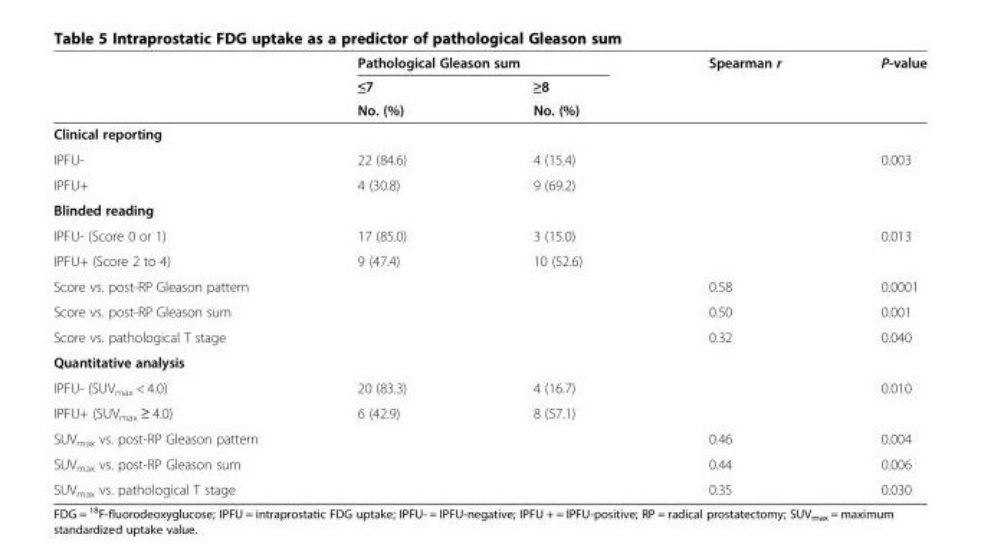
<table><thead><tr><td rowspan="3"></td><td colspan="2">Pathological Gleason sum</td><td rowspan="3">Spearman r</td><td rowspan="3">P-value</td></tr><tr><td rowspan="2">≤7 No. (%)</td><td rowspan="2">≥8 No. (%)</td></tr><tr></tr></thead><tbody><tr><td colspan="5">Clinical reporting</td></tr><tr><td>IPFU-</td><td>22 (84.6)</td><td>4 (15.4)</td><td></td><td>0.003</td></tr><tr><td>IPFU+</td><td>4 (30.8)</td><td>9 (69.2)</td><td></td><td></td></tr><tr><td colspan="5">Blinded reading</td></tr><tr><td>IPFU- (Score 0 or 1)</td><td>17 (85.0)</td><td>3 (15.0)</td><td></td><td>0.013</td></tr><tr><td>IPFU+ (Score 2 to 4)</td><td>9 (47.4)</td><td>10 (52.6)</td><td></td><td></td></tr><tr><td>Score vs. post-RP Gleason pattern</td><td></td><td></td><td>0.58</td><td>0.0001</td></tr><tr><td>Score vs. post-RP Gleason sum</td><td></td><td></td><td>0.50</td><td>0.001</td></tr><tr><td>Score vs. pathological T stage</td><td></td><td></td><td>0.32</td><td>0.040</td></tr><tr><td colspan="5">Quantitative analysis</td></tr><tr><td>IPFU- (SUV<sub>max</sub> &lt; 4.0)</td><td>20 (83.3)</td><td>4 (16.7)</td><td></td><td>0.010</td></tr><tr><td>IPFU+ (SUV<sub>max</sub> ≥ 4.0)</td><td>6 (42.9)</td><td>8 (57.1)</td><td></td><td></td></tr><tr><td>SUV<sub>max</sub> vs. post-RP Gleason pattern</td><td></td><td></td><td>0.46</td><td>0.004</td></tr><tr><td>SUV<sub>max</sub> vs. post-RP Gleason sum</td><td></td><td></td><td>0.44</td><td>0.006</td></tr><tr><td>SUV<sub>max</sub> vs. pathological T stage</td><td></td><td></td><td>0.35</td><td>0.030</td></tr></tbody></table>